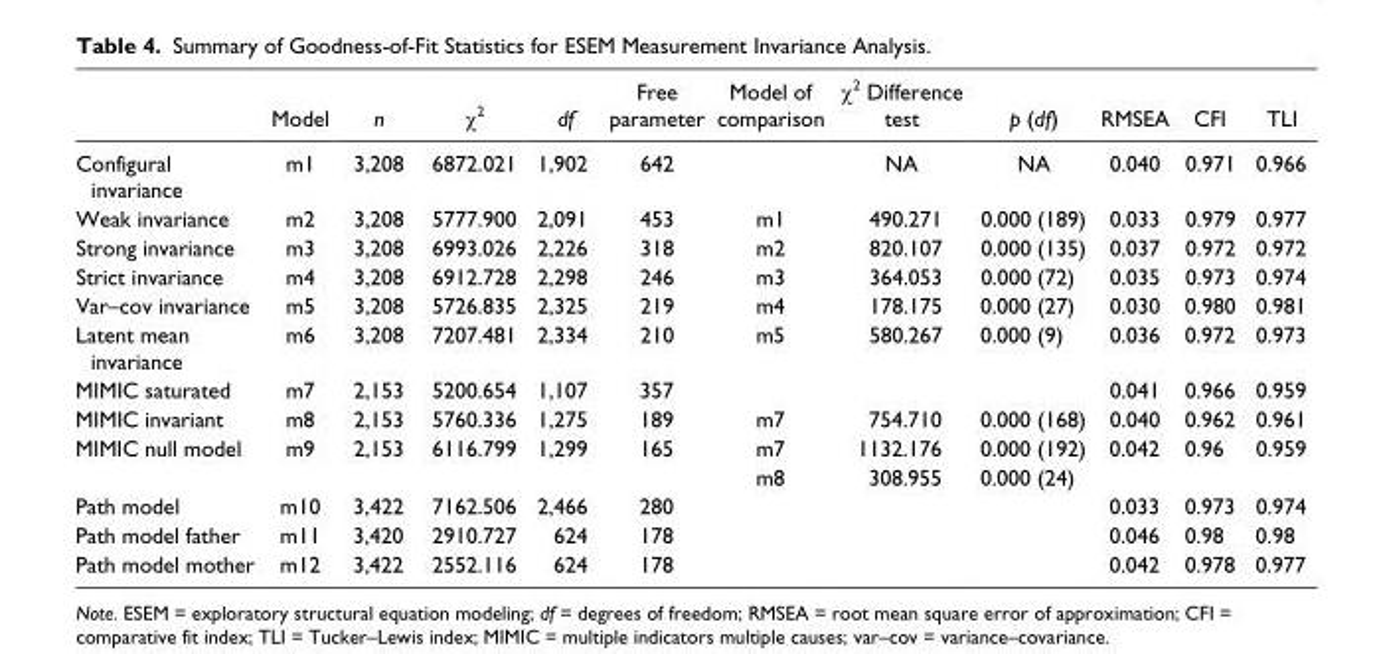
<table><thead><tr><td></td><td>Model</td><td>n</td><td>χ<sup>2</sup></td><td>df</td><td>Free parameter</td><td>Model of comparison</td><td>χ<sup>2</sup> Difference test</td><td>p (df)</td><td>RMSEA</td><td>CFI</td><td>TLI</td></tr></thead><tbody><tr><td>Configural invariance</td><td>m1</td><td>3,208</td><td>6872.021</td><td>1,902</td><td>642</td><td></td><td>NA</td><td>NA</td><td>0.040</td><td>0.971</td><td>0.966</td></tr><tr><td>Weak invariance</td><td>m2</td><td>3,208</td><td>5777.900</td><td>2,091</td><td>453</td><td>m1</td><td>490.271</td><td>0.000 (189)</td><td>0.033</td><td>0.979</td><td>0.977</td></tr><tr><td>Strong invariance</td><td>m3</td><td>3,208</td><td>6993.026</td><td>2,226</td><td>318</td><td>m2</td><td>820.107</td><td>0.000 (135)</td><td>0.037</td><td>0.972</td><td>0.972</td></tr><tr><td>Strict invariance</td><td>m4</td><td>3,208</td><td>6912.728</td><td>2,298</td><td>246</td><td>m3</td><td>364.053</td><td>0.000 (72)</td><td>0.035</td><td>0.973</td><td>0.974</td></tr><tr><td>Var–cov invariance</td><td>m5</td><td>3,208</td><td>5726.835</td><td>2,325</td><td>219</td><td>m4</td><td>178.175</td><td>0.000 (27)</td><td>0.030</td><td>0.980</td><td>0.981</td></tr><tr><td>Latent mean invariance</td><td>m6</td><td>3,208</td><td>7207.481</td><td>2,334</td><td>210</td><td>m5</td><td>580.267</td><td>0.000 (9)</td><td>0.036</td><td>0.972</td><td>0.973</td></tr><tr><td>MIMIC saturated</td><td>m7</td><td>2,153</td><td>5200.654</td><td>1,107</td><td>357</td><td></td><td></td><td></td><td>0.041</td><td>0.966</td><td>0.959</td></tr><tr><td>MIMIC invariant</td><td>m8</td><td>2,153</td><td>5760.336</td><td>1,275</td><td>189</td><td>m7</td><td>754.710</td><td>0.000 (168)</td><td>0.040</td><td>0.962</td><td>0.961</td></tr><tr><td rowspan="2">MIMIC null model</td><td rowspan="2">m9</td><td rowspan="2">2,153</td><td rowspan="2">6116.799</td><td rowspan="2">1,299</td><td rowspan="2">165</td><td>m7</td><td>1132.176</td><td>0.000 (192)</td><td rowspan="2">0.042</td><td rowspan="2">0.96</td><td rowspan="2">0.959</td></tr><tr><td>m8</td><td>308.955</td><td>0.000 (24)</td></tr><tr><td>Path model</td><td>m10</td><td>3,422</td><td>7162.506</td><td>2,466</td><td>280</td><td></td><td></td><td></td><td>0.033</td><td>0.973</td><td>0.974</td></tr><tr><td>Path model father</td><td>m11</td><td>3,420</td><td>2910.727</td><td>624</td><td>178</td><td></td><td></td><td></td><td>0.046</td><td>0.98</td><td>0.98</td></tr><tr><td>Path model mother</td><td>m12</td><td>3,422</td><td>2552.116</td><td>624</td><td>178</td><td></td><td></td><td></td><td>0.042</td><td>0.978</td><td>0.977</td></tr></tbody></table>